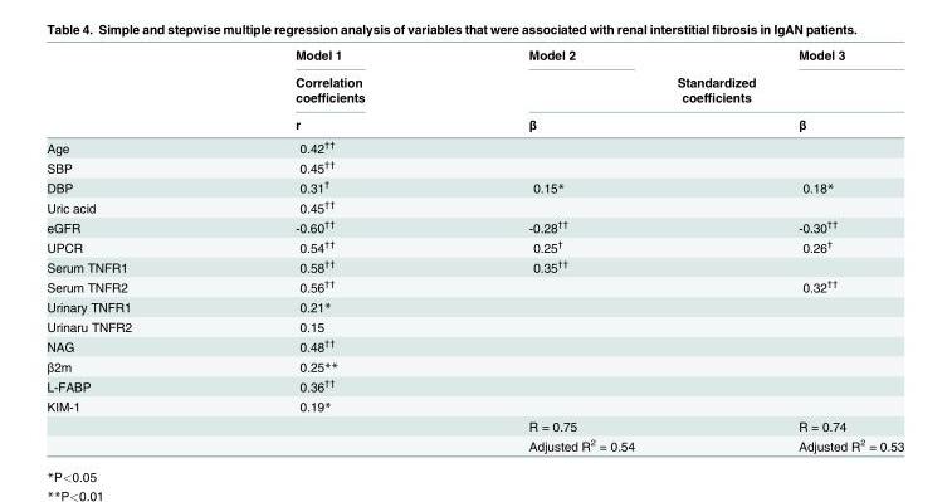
<table><thead><tr><td rowspan="4"></td><td rowspan="4">Model 1 Correlation coefficients r</td><td>Model 2</td><td>Model 3</td></tr><tr><td rowspan="2" colspan="2">Standardized coefficients</td></tr><tr></tr><tr><td>β</td><td>β</td></tr></thead><tbody><tr><td>Age</td><td>0.42<sup>††</sup></td><td></td><td></td></tr><tr><td>SBP</td><td>0.45<sup>††</sup></td><td></td><td></td></tr><tr><td>DBP</td><td>0.31<sup>†</sup></td><td>0.15*</td><td>0.18*</td></tr><tr><td>Uric acid</td><td>0.45<sup>††</sup></td><td></td><td></td></tr><tr><td>eGFR</td><td>-0.60<sup>††</sup></td><td>-0.28<sup>††</sup></td><td>-0.30<sup>††</sup></td></tr><tr><td>UPCR</td><td>0.54<sup>††</sup></td><td>0.25<sup>†</sup></td><td>0.26<sup>†</sup></td></tr><tr><td>Serum TNFR1</td><td>0.58<sup>††</sup></td><td>0.35<sup>††</sup></td><td></td></tr><tr><td>Serum TNFR2</td><td>0.56<sup>††</sup></td><td></td><td>0.32<sup>††</sup></td></tr><tr><td>Urinary TNFR1</td><td>0.21*</td><td></td><td></td></tr><tr><td>Urinaru TNFR2</td><td>0.15</td><td></td><td></td></tr><tr><td>NAG</td><td>0.48<sup>††</sup></td><td></td><td></td></tr><tr><td>β2m</td><td>0.25**</td><td></td><td></td></tr><tr><td>L-FABP</td><td>0.36<sup>††</sup></td><td></td><td></td></tr><tr><td rowspan="3">KIM-1</td><td>0.19*</td><td></td><td></td></tr><tr><td></td><td>R = 0.75</td><td>R = 0.74</td></tr><tr><td></td><td>Adjusted R<sup>2</sup> = 0.54</td><td>Adjusted R<sup>2</sup> = 0.53</td></tr></tbody></table>